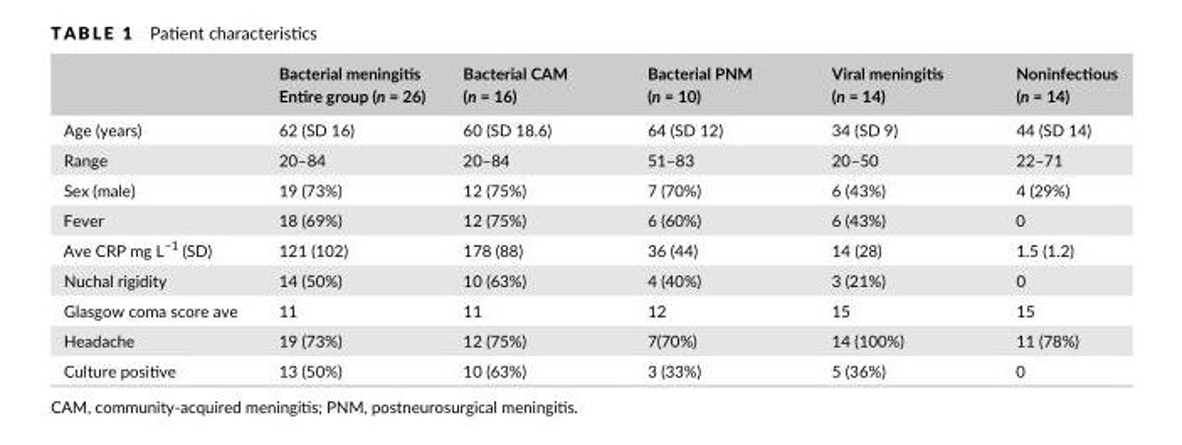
<table><thead><tr><td></td><td>Bacterial meningitis Entire group (n = 26)</td><td>Bacterial CAM (n = 16)</td><td>Bacterial PNM (n = 10)</td><td>Viral meningitis (n = 14)</td><td>Noninfectious (n = 14)</td></tr></thead><tbody><tr><td>Age (years)</td><td>62 (SD 16)</td><td>60 (SD 18.6)</td><td>64 (SD 12)</td><td>34 (SD 9)</td><td>44 (SD 14)</td></tr><tr><td>Range</td><td>20–84</td><td>20–84</td><td>51–83</td><td>20–50</td><td>22–71</td></tr><tr><td>Sex (male)</td><td>19 (73%)</td><td>12 (75%)</td><td>7 (70%)</td><td>6 (43%)</td><td>4 (29%)</td></tr><tr><td>Fever</td><td>18 (69%)</td><td>12 (75%)</td><td>6 (60%)</td><td>6 (43%)</td><td>0</td></tr><tr><td>Ave CRP mg L<sup>−1</sup> (SD)</td><td>121 (102)</td><td>178 (88)</td><td>36 (44)</td><td>14 (28)</td><td>1.5 (1.2)</td></tr><tr><td>Nuchal rigidity</td><td>14 (50%)</td><td>10 (63%)</td><td>4 (40%)</td><td>3 (21%)</td><td>0</td></tr><tr><td>Glasgow coma score ave</td><td>11</td><td>11</td><td>12</td><td>15</td><td>15</td></tr><tr><td>Headache</td><td>19 (73%)</td><td>12 (75%)</td><td>7(70%)</td><td>14 (100%)</td><td>11 (78%)</td></tr><tr><td>Culture positive</td><td>13 (50%)</td><td>10 (63%)</td><td>3 (33%)</td><td>5 (36%)</td><td>0</td></tr></tbody></table>